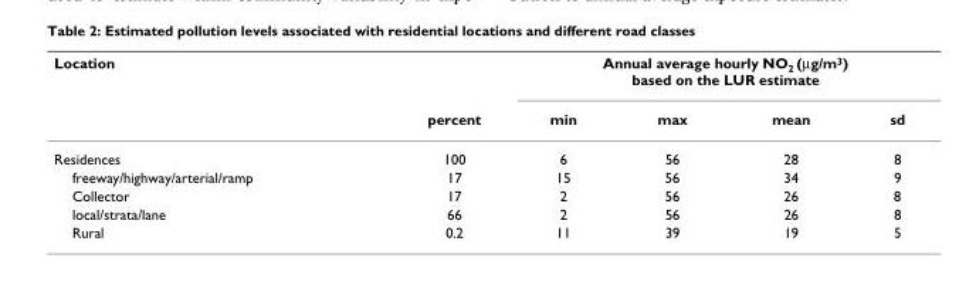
<table><thead><tr><td rowspan="2">Location</td><td rowspan="2">percent</td><td colspan="4">Annual average hourly NO<sub>2</sub> (μg/m<sup>3</sup>) based on the LUR estimate</td></tr><tr><td>min</td><td>max</td><td>mean</td><td>sd</td></tr></thead><tbody><tr><td>Residences</td><td>100</td><td>6</td><td>56</td><td>28</td><td>8</td></tr><tr><td>freeway/highway/arterial/ramp</td><td>17</td><td>15</td><td>56</td><td>34</td><td>9</td></tr><tr><td>Collector</td><td>17</td><td>2</td><td>56</td><td>26</td><td>8</td></tr><tr><td>local/strata/lane</td><td>66</td><td>2</td><td>56</td><td>26</td><td>8</td></tr><tr><td>Rural</td><td>0.2</td><td>11</td><td>39</td><td>19</td><td>5</td></tr></tbody></table>